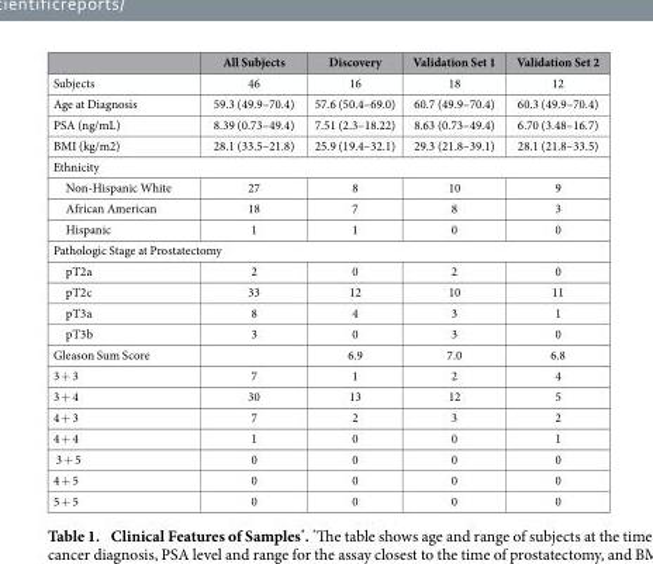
<table><thead><tr><td></td><td>All Subjects</td><td>Discovery</td><td>Validation Set 1</td><td>Validation Set 2</td></tr></thead><tbody><tr><td>Subjects</td><td>46</td><td>16</td><td>18</td><td>12</td></tr><tr><td>Age at Diagnosis</td><td>59.3 (49.9–70.4)</td><td>57.6 (50.4–69.0)</td><td>60.7 (49.9–70.4)</td><td>60.3 (49.9–70.4)</td></tr><tr><td>PSA (ng/mL)</td><td>8.39 (0.73–49.4)</td><td>7.51 (2.3–18.22)</td><td>8.63 (0.73–49.4)</td><td>6.70 (3.48–16.7)</td></tr><tr><td>BMI (kg/m2)</td><td>28.1 (33.5–21.8)</td><td>25.9 (19.4–32.1)</td><td>29.3 (21.8–39.1)</td><td>28.1 (21.8–33.5)</td></tr><tr><td colspan="5">Ethnicity</td></tr><tr><td>Non-Hispanic White</td><td>27</td><td>8</td><td>10</td><td>9</td></tr><tr><td>African American</td><td>18</td><td>7</td><td>8</td><td>3</td></tr><tr><td>Hispanic</td><td>1</td><td>1</td><td>0</td><td>0</td></tr><tr><td colspan="5">Pathologic Stage at Prostatectomy</td></tr><tr><td>pT2a</td><td>2</td><td>0</td><td>2</td><td>0</td></tr><tr><td>pT2c</td><td>33</td><td>12</td><td>10</td><td>11</td></tr><tr><td>pT3a</td><td>8</td><td>4</td><td>3</td><td>1</td></tr><tr><td>pT3b</td><td>3</td><td>0</td><td>3</td><td>0</td></tr><tr><td>Gleason Sum Score</td><td></td><td>6.9</td><td>7.0</td><td>6.8</td></tr><tr><td>3 + 3</td><td>7</td><td>1</td><td>2</td><td>4</td></tr><tr><td>3 + 4</td><td>30</td><td>13</td><td>12</td><td>5</td></tr><tr><td>4 + 3</td><td>7</td><td>2</td><td>3</td><td>2</td></tr><tr><td>4 + 4</td><td>1</td><td>0</td><td>0</td><td>1</td></tr><tr><td>3 + 5</td><td>0</td><td>0</td><td>0</td><td>0</td></tr><tr><td>4 + 5</td><td>0</td><td>0</td><td>0</td><td>0</td></tr><tr><td>5 + 5</td><td>0</td><td>0</td><td>0</td><td>0</td></tr></tbody></table>